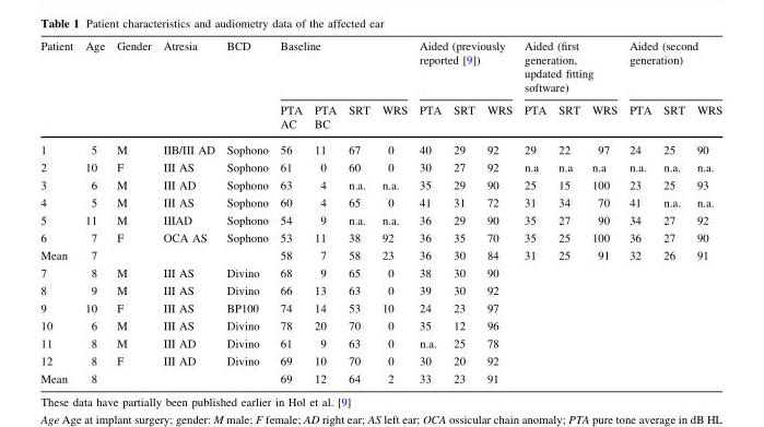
<table><thead><tr><td rowspan="2">Patient</td><td rowspan="2">Age</td><td rowspan="2">Gender</td><td rowspan="2">Atresia</td><td rowspan="2">BCD</td><td colspan="4">Baseline</td><td colspan="3">Aided (previously reported [9])</td><td colspan="3">Aided (first generation, updated fitting software)</td><td colspan="3">Aided (second generation)</td></tr><tr><td>PTA AC</td><td>PTA BC</td><td>SRT</td><td>WRS</td><td>PTA</td><td>SRT</td><td>WRS</td><td>PTA</td><td>SRT</td><td>WRS</td><td>PTA</td><td>SRT</td><td>WRS</td></tr></thead><tbody><tr><td>1</td><td>5</td><td>M</td><td>IIB/III AD</td><td>Sophono</td><td>56</td><td>11</td><td>67</td><td>0</td><td>40</td><td>29</td><td>92</td><td>29</td><td>22</td><td>97</td><td>24</td><td>25</td><td>90</td></tr><tr><td>2</td><td>10</td><td>F</td><td>III AS</td><td>Sophono</td><td>61</td><td>0</td><td>60</td><td>0</td><td>30</td><td>27</td><td>92</td><td>n.a</td><td>n.a</td><td>n.a</td><td>n.a.</td><td>n.a.</td><td>n.a.</td></tr><tr><td>3</td><td>6</td><td>M</td><td>III AD</td><td>Sophono</td><td>63</td><td>4</td><td>n.a.</td><td>n.a.</td><td>35</td><td>29</td><td>90</td><td>25</td><td>15</td><td>100</td><td>23</td><td>25</td><td>93</td></tr><tr><td>4</td><td>5</td><td>M</td><td>III AS</td><td>Sophono</td><td>60</td><td>4</td><td>65</td><td>0</td><td>41</td><td>31</td><td>72</td><td>31</td><td>34</td><td>70</td><td>41</td><td>n.a.</td><td>n.a.</td></tr><tr><td>5</td><td>11</td><td>M</td><td>IIIAD</td><td>Sophono</td><td>54</td><td>9</td><td>n.a.</td><td>n.a.</td><td>36</td><td>29</td><td>90</td><td>35</td><td>27</td><td>90</td><td>34</td><td>27</td><td>92</td></tr><tr><td>6</td><td>7</td><td>F</td><td>OCA AS</td><td>Sophono</td><td>53</td><td>11</td><td>38</td><td>92</td><td>36</td><td>35</td><td>70</td><td>35</td><td>25</td><td>100</td><td>36</td><td>27</td><td>90</td></tr><tr><td>Mean</td><td>7</td><td></td><td></td><td></td><td>58</td><td>7</td><td>58</td><td>23</td><td>36</td><td>30</td><td>84</td><td>31</td><td>25</td><td>91</td><td>32</td><td>26</td><td>91</td></tr><tr><td>7</td><td>8</td><td>M</td><td>III AS</td><td>Divino</td><td>68</td><td>9</td><td>65</td><td>0</td><td>38</td><td>30</td><td>90</td><td></td><td></td><td></td><td></td><td></td><td></td></tr><tr><td>8</td><td>9</td><td>M</td><td>III AS</td><td>Divino</td><td>66</td><td>13</td><td>63</td><td>0</td><td>39</td><td>30</td><td>92</td><td></td><td></td><td></td><td></td><td></td><td></td></tr><tr><td>9</td><td>10</td><td>F</td><td>III AS</td><td>BP100</td><td>74</td><td>14</td><td>53</td><td>10</td><td>24</td><td>23</td><td>97</td><td></td><td></td><td></td><td></td><td></td><td></td></tr><tr><td>10</td><td>6</td><td>M</td><td>III AS</td><td>Divino</td><td>78</td><td>20</td><td>70</td><td>0</td><td>35</td><td>12</td><td>96</td><td></td><td></td><td></td><td></td><td></td><td></td></tr><tr><td>11</td><td>8</td><td>M</td><td>III AD</td><td>Divino</td><td>61</td><td>9</td><td>63</td><td>0</td><td>n.a.</td><td>25</td><td>78</td><td></td><td></td><td></td><td></td><td></td><td></td></tr><tr><td>12</td><td>8</td><td>F</td><td>III AD</td><td>Divino</td><td>69</td><td>10</td><td>70</td><td>0</td><td>30</td><td>20</td><td>92</td><td></td><td></td><td></td><td></td><td></td><td></td></tr><tr><td>Mean</td><td>8</td><td></td><td></td><td></td><td>69</td><td>12</td><td>64</td><td>2</td><td>33</td><td>23</td><td>91</td><td></td><td></td><td></td><td></td><td></td><td></td></tr></tbody></table>